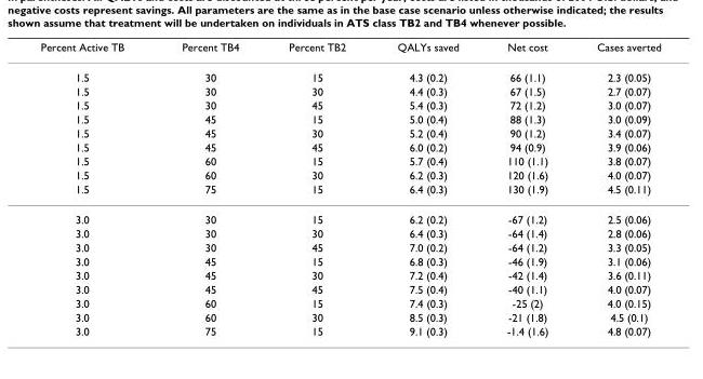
<table><thead><tr><td>Percent Active TB</td><td>Percent TB4</td><td>Percent TB2</td><td>QALYs saved</td><td>Net cost</td><td>Cases averted</td></tr></thead><tbody><tr><td>1.5</td><td>30</td><td>15</td><td>4.3 (0.2)</td><td>66 (1.1)</td><td>2.3 (0.05)</td></tr><tr><td>1.5</td><td>30</td><td>30</td><td>4.4 (0.3)</td><td>67 (1.5)</td><td>2.7 (0.07)</td></tr><tr><td>1.5</td><td>30</td><td>45</td><td>5.4 (0.3)</td><td>72 (1.2)</td><td>3.0 (0.07)</td></tr><tr><td>1.5</td><td>45</td><td>15</td><td>5.0 (0.4)</td><td>88 (1.3)</td><td>3.0 (0.09)</td></tr><tr><td>1.5</td><td>45</td><td>30</td><td>5.2 (0.4)</td><td>90 (1.2)</td><td>3.4 (0.07)</td></tr><tr><td>1.5</td><td>45</td><td>45</td><td>6.0 (0.2)</td><td>94 (0.9)</td><td>3.9 (0.06)</td></tr><tr><td>1.5</td><td>60</td><td>15</td><td>5.7 (0.4)</td><td>110 (1.1)</td><td>3.8 (0.07)</td></tr><tr><td>1.5</td><td>60</td><td>30</td><td>6.2 (0.3)</td><td>120 (1.6)</td><td>4.0 (0.07)</td></tr><tr><td>1.5</td><td>75</td><td>15</td><td>6.4 (0.3)</td><td>130 (1.9)</td><td>4.5 (0.11)</td></tr><tr><td>3.0</td><td>30</td><td>15</td><td>6.2 (0.2)</td><td>-67 (1.2)</td><td>2.5 (0.06)</td></tr><tr><td>3.0</td><td>30</td><td>30</td><td>6.4 (0.3)</td><td>-64 (1.4)</td><td>2.8 (0.06)</td></tr><tr><td>3.0</td><td>30</td><td>45</td><td>7.0 (0.2)</td><td>-64 (1.2)</td><td>3.3 (0.05)</td></tr><tr><td>3.0</td><td>45</td><td>15</td><td>6.8 (0.3)</td><td>-46 (1.9)</td><td>3.1 (0.06)</td></tr><tr><td>3.0</td><td>45</td><td>30</td><td>7.2 (0.4)</td><td>-42 (1.4)</td><td>3.6 (0.11)</td></tr><tr><td>3.0</td><td>45</td><td>45</td><td>7.5 (0.4)</td><td>-40 (1.1)</td><td>4.0 (0.07)</td></tr><tr><td>3.0</td><td>60</td><td>15</td><td>7.4 (0.3)</td><td>-25 (2)</td><td>4.0 (0.15)</td></tr><tr><td>3.0</td><td>60</td><td>30</td><td>8.5 (0.3)</td><td>-21 (1.8)</td><td>4.5 (0.1)</td></tr><tr><td>3.0</td><td>75</td><td>15</td><td>9.1 (0.3)</td><td>-1.4 (1.6)</td><td>4.8 (0.07)</td></tr></tbody></table>